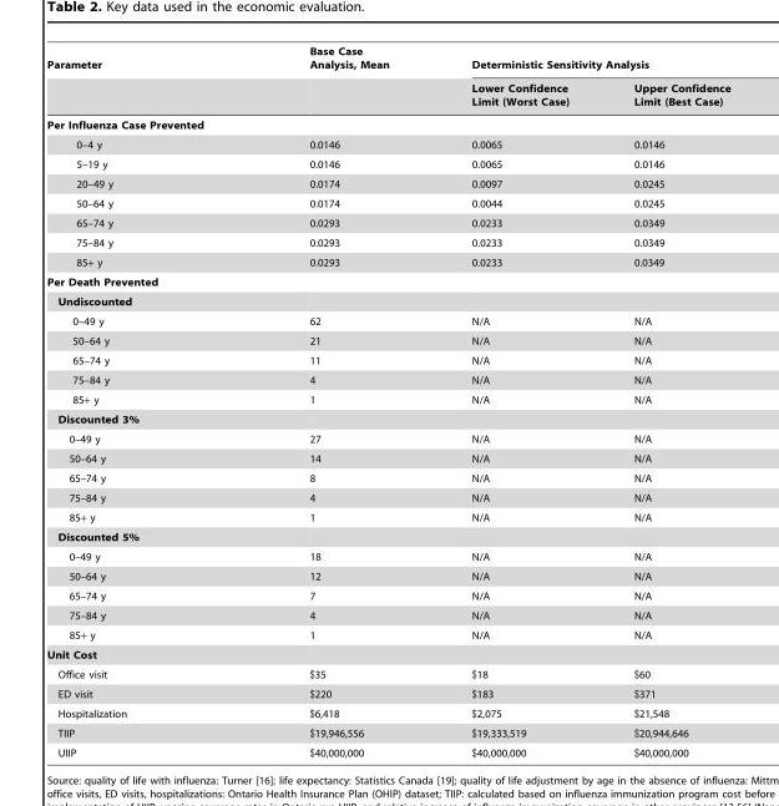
<table><thead><tr><td rowspan="2">Parameter</td><td rowspan="2">Base Case Analysis, Mean</td><td colspan="2">Deterministic Sensitivity Analysis</td></tr><tr><td>Lower Confidence Limit (Worst Case)</td><td>Upper Confidence Limit (Best Case)</td></tr></thead><tbody><tr><td colspan="4">Per Influenza Case Prevented</td></tr><tr><td>0–4 y</td><td>0.0146</td><td>0.0065</td><td>0.0146</td></tr><tr><td>5–19 y</td><td>0.0146</td><td>0.0065</td><td>0.0146</td></tr><tr><td>20–49 y</td><td>0.0174</td><td>0.0097</td><td>0.0245</td></tr><tr><td>50–64 y</td><td>0.0174</td><td>0.0044</td><td>0.0245</td></tr><tr><td>65–74 y</td><td>0.0293</td><td>0.0233</td><td>0.0349</td></tr><tr><td>75–84 y</td><td>0.0293</td><td>0.0233</td><td>0.0349</td></tr><tr><td>85+ y</td><td>0.0293</td><td>0.0233</td><td>0.0349</td></tr><tr><td colspan="4">Per Death Prevented</td></tr><tr><td colspan="4">Undiscounted</td></tr><tr><td>0–49 y</td><td>62</td><td>N/A</td><td>N/A</td></tr><tr><td>50–64 y</td><td>21</td><td>N/A</td><td>N/A</td></tr><tr><td>65–74 y</td><td>11</td><td>N/A</td><td>N/A</td></tr><tr><td>75–84 y</td><td>4</td><td>N/A</td><td>N/A</td></tr><tr><td>85+ y</td><td>1</td><td>N/A</td><td>N/A</td></tr><tr><td colspan="4">Discounted 3%</td></tr><tr><td>0–49 y</td><td>27</td><td>N/A</td><td>N/A</td></tr><tr><td>50–64 y</td><td>14</td><td>N/A</td><td>N/A</td></tr><tr><td>65–74 y</td><td>8</td><td>N/A</td><td>N/A</td></tr><tr><td>75–84 y</td><td>4</td><td>N/A</td><td>N/A</td></tr><tr><td>85+ y</td><td>1</td><td>N/A</td><td>N/A</td></tr><tr><td colspan="4">Discounted 5%</td></tr><tr><td>0–49 y</td><td>18</td><td>N/A</td><td>N/A</td></tr><tr><td>50–64 y</td><td>12</td><td>N/A</td><td>N/A</td></tr><tr><td>65–74 y</td><td>7</td><td>N/A</td><td>N/A</td></tr><tr><td>75–84 y</td><td>4</td><td>N/A</td><td>N/A</td></tr><tr><td>85+ y</td><td>1</td><td>N/A</td><td>N/A</td></tr><tr><td colspan="4">Unit Cost</td></tr><tr><td>Office visit</td><td>$35</td><td>$18</td><td>$60</td></tr><tr><td>ED visit</td><td>$220</td><td>$183</td><td>$371</td></tr><tr><td>Hospitalization</td><td>$6,418</td><td>$2,075</td><td>$21,548</td></tr><tr><td>TIIP</td><td>$19,946,556</td><td>$19,333,519</td><td>$20,944,646</td></tr><tr><td>UIIP</td><td>$40,000,000</td><td>$40,000,000</td><td>$40,000,000</td></tr></tbody></table>